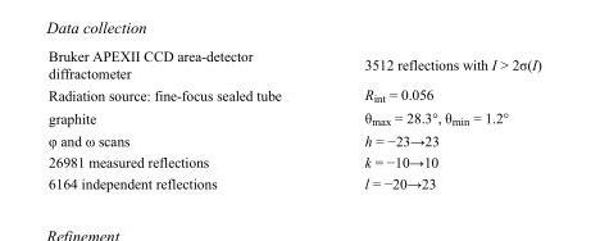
<table><tbody><tr><td>Bruker APEXII CCD area-detector diffractometer</td><td>3512 reflections with I &gt; 2σ(I)</td></tr><tr><td>Radiation source: fine-focus sealed tube</td><td>R<sub>int</sub> = 0.056</td></tr><tr><td>graphite</td><td>θ<sub>max</sub> = 28.3°, θ<sub>min</sub> = 1.2°</td></tr><tr><td>φ and ω scans</td><td>h = −23→23</td></tr><tr><td>26981 measured reflections</td><td>k = −10→10</td></tr><tr><td>6164 independent reflections</td><td>l = −20→23</td></tr></tbody></table>